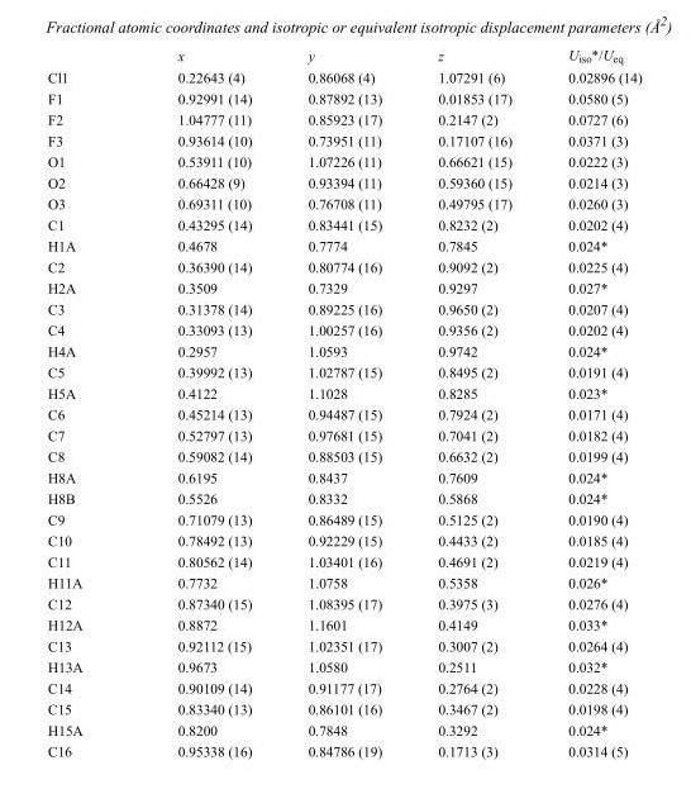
<table><thead><tr><td></td><td>x</td><td>y</td><td>z</td><td>U<sub>iso</sub>*/U<sub>eq</sub></td></tr></thead><tbody><tr><td>Cl1</td><td>0.22643 (4)</td><td>0.86068 (4)</td><td>1.07291 (6)</td><td>0.02896 (14)</td></tr><tr><td>F1</td><td>0.92991 (14)</td><td>0.87892 (13)</td><td>0.01853 (17)</td><td>0.0580 (5)</td></tr><tr><td>F2</td><td>1.04777 (11)</td><td>0.85923 (17)</td><td>0.2147 (2)</td><td>0.0727 (6)</td></tr><tr><td>F3</td><td>0.93614 (10)</td><td>0.73951 (11)</td><td>0.17107 (16)</td><td>0.0371 (3)</td></tr><tr><td>O1</td><td>0.53911 (10)</td><td>1.07226 (11)</td><td>0.66621 (15)</td><td>0.0222 (3)</td></tr><tr><td>O2</td><td>0.66428 (9)</td><td>0.93394 (11)</td><td>0.59360 (15)</td><td>0.0214 (3)</td></tr><tr><td>O3</td><td>0.69311 (10)</td><td>0.76708 (11)</td><td>0.49795 (17)</td><td>0.0260 (3)</td></tr><tr><td>C1</td><td>0.43295 (14)</td><td>0.83441 (15)</td><td>0.8232 (2)</td><td>0.0202 (4)</td></tr><tr><td>H1A</td><td>0.4678</td><td>0.7774</td><td>0.7845</td><td>0.024*</td></tr><tr><td>C2</td><td>0.36390 (14)</td><td>0.80774 (16)</td><td>0.9092 (2)</td><td>0.0225 (4)</td></tr><tr><td>H2A</td><td>0.3509</td><td>0.7329</td><td>0.9297</td><td>0.027*</td></tr><tr><td>C3</td><td>0.31378 (14)</td><td>0.89225 (16)</td><td>0.9650 (2)</td><td>0.0207 (4)</td></tr><tr><td>C4</td><td>0.33093 (13)</td><td>1.00257 (16)</td><td>0.9356 (2)</td><td>0.0202 (4)</td></tr><tr><td>H4A</td><td>0.2957</td><td>1.0593</td><td>0.9742</td><td>0.024*</td></tr><tr><td>C5</td><td>0.39992 (13)</td><td>1.02787 (15)</td><td>0.8495 (2)</td><td>0.0191 (4)</td></tr><tr><td>H5A</td><td>0.4122</td><td>1.1028</td><td>0.8285</td><td>0.023*</td></tr><tr><td>C6</td><td>0.45214 (13)</td><td>0.94487 (15)</td><td>0.7924 (2)</td><td>0.0171 (4)</td></tr><tr><td>C7</td><td>0.52797 (13)</td><td>0.97681 (15)</td><td>0.7041 (2)</td><td>0.0182 (4)</td></tr><tr><td>C8</td><td>0.59082 (14)</td><td>0.88503 (15)</td><td>0.6632 (2)</td><td>0.0199 (4)</td></tr><tr><td>H8A</td><td>0.6195</td><td>0.8437</td><td>0.7609</td><td>0.024*</td></tr><tr><td>H8B</td><td>0.5526</td><td>0.8332</td><td>0.5868</td><td>0.024*</td></tr><tr><td>C9</td><td>0.71079 (13)</td><td>0.86489 (15)</td><td>0.5125 (2)</td><td>0.0190 (4)</td></tr><tr><td>C10</td><td>0.78492 (13)</td><td>0.92229 (15)</td><td>0.4433 (2)</td><td>0.0185 (4)</td></tr><tr><td>C11</td><td>0.80562 (14)</td><td>1.03401 (16)</td><td>0.4691 (2)</td><td>0.0219 (4)</td></tr><tr><td>H11A</td><td>0.7732</td><td>1.0758</td><td>0.5358</td><td>0.026*</td></tr><tr><td>C12</td><td>0.87340 (15)</td><td>1.08395 (17)</td><td>0.3975 (3)</td><td>0.0276 (4)</td></tr><tr><td>H12A</td><td>0.8872</td><td>1.1601</td><td>0.4149</td><td>0.033*</td></tr><tr><td>C13</td><td>0.92112 (15)</td><td>1.02351 (17)</td><td>0.3007 (2)</td><td>0.0264 (4)</td></tr><tr><td>H13A</td><td>0.9673</td><td>1.0580</td><td>0.2511</td><td>0.032*</td></tr><tr><td>C14</td><td>0.90109 (14)</td><td>0.91177 (17)</td><td>0.2764 (2)</td><td>0.0228 (4)</td></tr><tr><td>C15</td><td>0.83340 (13)</td><td>0.86101 (16)</td><td>0.3467 (2)</td><td>0.0198 (4)</td></tr><tr><td>H15A</td><td>0.8200</td><td>0.7848</td><td>0.3292</td><td>0.024*</td></tr><tr><td>C16</td><td>0.95338 (16)</td><td>0.84786 (19)</td><td>0.1713 (3)</td><td>0.0314 (5)</td></tr></tbody></table>